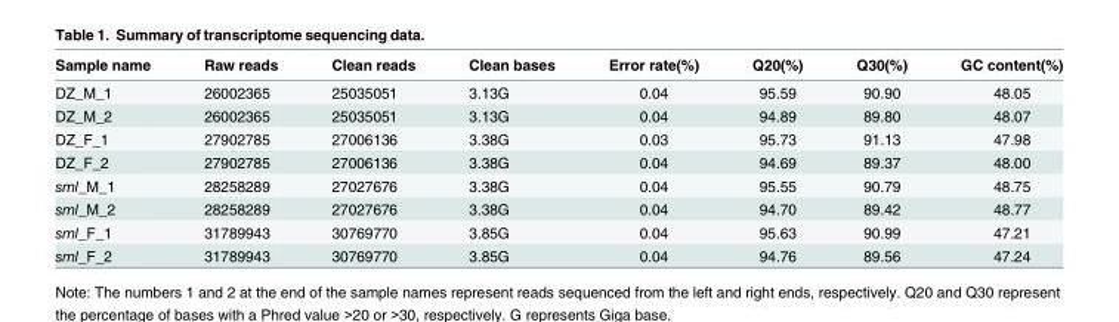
<table><thead><tr><td>Sample name</td><td>Raw reads</td><td>Clean reads</td><td>Clean bases</td><td>Error rate(%)</td><td>Q20(%)</td><td>Q30(%)</td><td>GC content(%)</td></tr></thead><tbody><tr><td>DZ_M_1</td><td>26002365</td><td>25035051</td><td>3.13G</td><td>0.04</td><td>95.59</td><td>90.90</td><td>48.05</td></tr><tr><td>DZ_M_2</td><td>26002365</td><td>25035051</td><td>3.13G</td><td>0.04</td><td>94.89</td><td>89.80</td><td>48.07</td></tr><tr><td>DZ_F_1</td><td>27902785</td><td>27006136</td><td>3.38G</td><td>0.03</td><td>95.73</td><td>91.13</td><td>47.98</td></tr><tr><td>DZ_F_2</td><td>27902785</td><td>27006136</td><td>3.38G</td><td>0.04</td><td>94.69</td><td>89.37</td><td>48.00</td></tr><tr><td>sml_M_1</td><td>28258289</td><td>27027676</td><td>3.38G</td><td>0.04</td><td>95.55</td><td>90.79</td><td>48.75</td></tr><tr><td>sml_M_2</td><td>28258289</td><td>27027676</td><td>3.38G</td><td>0.04</td><td>94.70</td><td>89.42</td><td>48.77</td></tr><tr><td>sml_F_1</td><td>31789943</td><td>30769770</td><td>3.85G</td><td>0.04</td><td>95.63</td><td>90.99</td><td>47.21</td></tr><tr><td>sml_F_2</td><td>31789943</td><td>30769770</td><td>3.85G</td><td>0.04</td><td>94.76</td><td>89.56</td><td>47.24</td></tr></tbody></table>